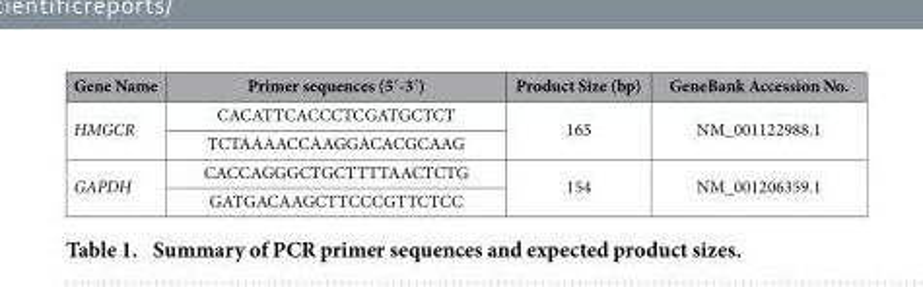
<table><thead><tr><td>Gene Name</td><td>Primer sequences (5′-3′)</td><td>Product Size (bp)</td><td>GeneBank Accession No.</td></tr></thead><tbody><tr><td rowspan="2">HMGCR</td><td>CACATTCACCCTCGATGCTCT</td><td rowspan="2">165</td><td rowspan="2">NM_001122988.1</td></tr><tr><td>TCTAAAACCAAGGACACGCAAG</td></tr><tr><td rowspan="2">GAPDH</td><td>CACCAGGGCTGCTTTTAACTCTG</td><td rowspan="2">154</td><td rowspan="2">NM_001206359.1</td></tr><tr><td>GATGACAAGCTTCCCGTTCTCC</td></tr></tbody></table>